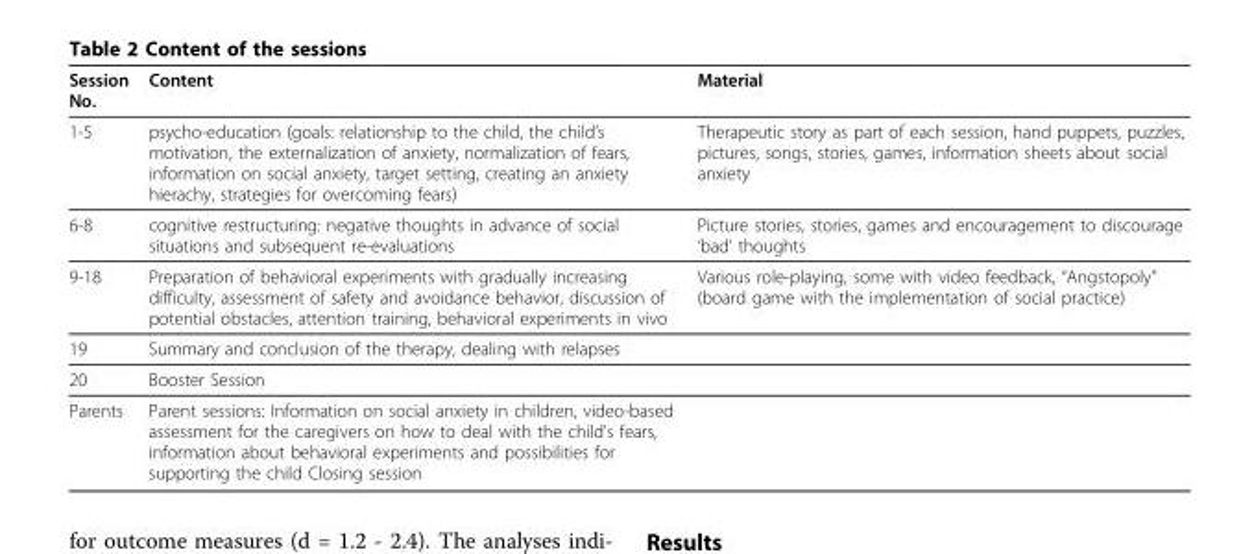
<table><thead><tr><td>Session No.</td><td>Content</td><td>Material</td></tr></thead><tbody><tr><td>1-5</td><td>psycho-education (goals: relationship to the child, the child’s motivation, the externalization of anxiety, normalization of fears, information on social anxiety, target setting, creating an anxiety hierachy, strategies for overcoming fears)</td><td>Therapeutic story as part of each session, hand puppets, puzzles, pictures, songs, stories, games, information sheets about social anxiety</td></tr><tr><td>6-8</td><td>cognitive restructuring: negative thoughts in advance of social situations and subsequent re-evaluations</td><td>Picture stories, stories, games and encouragement to discourage ‘bad’ thoughts</td></tr><tr><td>9-18</td><td>Preparation of behavioral experiments with gradually increasing difficulty, assessment of safety and avoidance behavior, discussion of potential obstacles, attention training, behavioral experiments in vivo</td><td>Various role-playing, some with video feedback, “Angstopoly” (board game with the implementation of social practice)</td></tr><tr><td>19</td><td>Summary and conclusion of the therapy, dealing with relapses</td><td></td></tr><tr><td>20</td><td>Booster Session</td><td></td></tr><tr><td>Parents</td><td>Parent sessions: Information on social anxiety in children, video-based assessment for the caregivers on how to deal with the child’s fears, information about behavioral experiments and possibilities for supporting the child Closing session</td><td></td></tr></tbody></table>